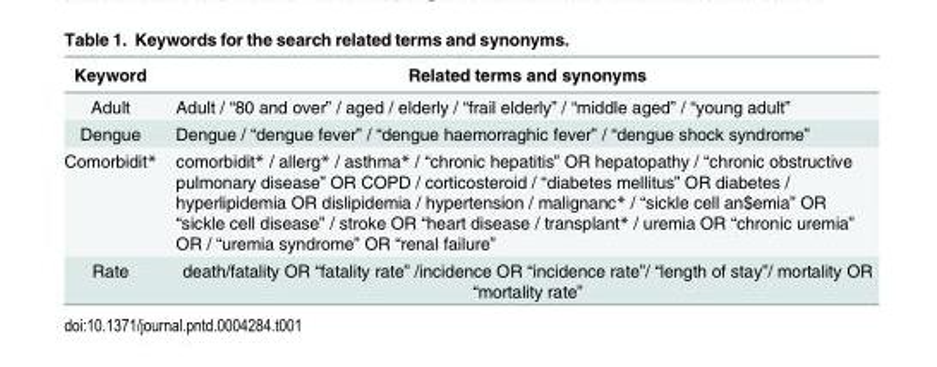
<table><thead><tr><td>Keyword</td><td>Related terms and synonyms</td></tr></thead><tbody><tr><td>Adult</td><td>Adult / “80 and over” / aged / elderly / “frail elderly” / “middle aged” / “young adult”</td></tr><tr><td>Dengue</td><td>Dengue / “dengue fever” / “dengue haemorraghic fever” / “dengue shock syndrome”</td></tr><tr><td>Comorbidit*</td><td>comorbidit* / allerg* / asthma* / “chronic hepatitis” OR hepatopathy / “chronic obstructive pulmonary disease” OR COPD / corticosteroid / “diabetes mellitus” OR diabetes / hyperlipidemia OR dislipidemia / hypertension / malignanc* / “sickle cell an$emia” OR “sickle cell disease” / stroke OR “heart disease / transplant* / uremia OR “chronic uremia” OR / “uremia syndrome” OR “renal failure”</td></tr><tr><td>Rate</td><td>death/fatality OR “fatality rate” /incidence OR “incidence rate”/ “length of stay”/ mortality OR “mortality rate”</td></tr></tbody></table>